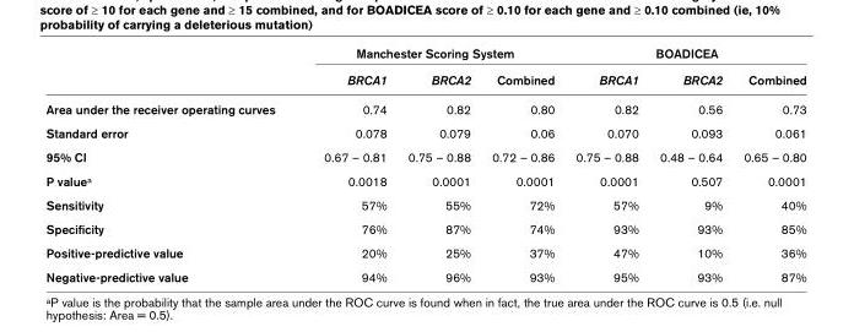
<table><thead><tr><td rowspan="2"></td><td colspan="3">Manchester Scoring System</td><td colspan="3">BOADICEA</td></tr><tr><td>BRCA1</td><td>BRCA2</td><td>Combined</td><td>BRCA1</td><td>BRCA2</td><td>Combined</td></tr></thead><tbody><tr><td>Area under the receiver operating curves</td><td>0.74</td><td>0.82</td><td>0.80</td><td>0.82</td><td>0.56</td><td>0.73</td></tr><tr><td>Standard error</td><td>0.078</td><td>0.079</td><td>0.06</td><td>0.070</td><td>0.093</td><td>0.061</td></tr><tr><td>95% CI</td><td>0.67 – 0.81</td><td>0.75 – 0.88</td><td>0.72 – 0.86</td><td>0.75 – 0.88</td><td>0.48 – 0.64</td><td>0.65 – 0.80</td></tr><tr><td>P value<sup>a</sup></td><td>0.0018</td><td>0.0001</td><td>0.0001</td><td>0.0001</td><td>0.507</td><td>0.0001</td></tr><tr><td>Sensitivity</td><td>57%</td><td>55%</td><td>72%</td><td>57%</td><td>9%</td><td>40%</td></tr><tr><td>Specificity</td><td>76%</td><td>87%</td><td>74%</td><td>93%</td><td>93%</td><td>85%</td></tr><tr><td>Positive-predictive value</td><td>20%</td><td>25%</td><td>37%</td><td>47%</td><td>10%</td><td>36%</td></tr><tr><td>Negative-predictive value</td><td>94%</td><td>96%</td><td>93%</td><td>95%</td><td>93%</td><td>87%</td></tr></tbody></table>